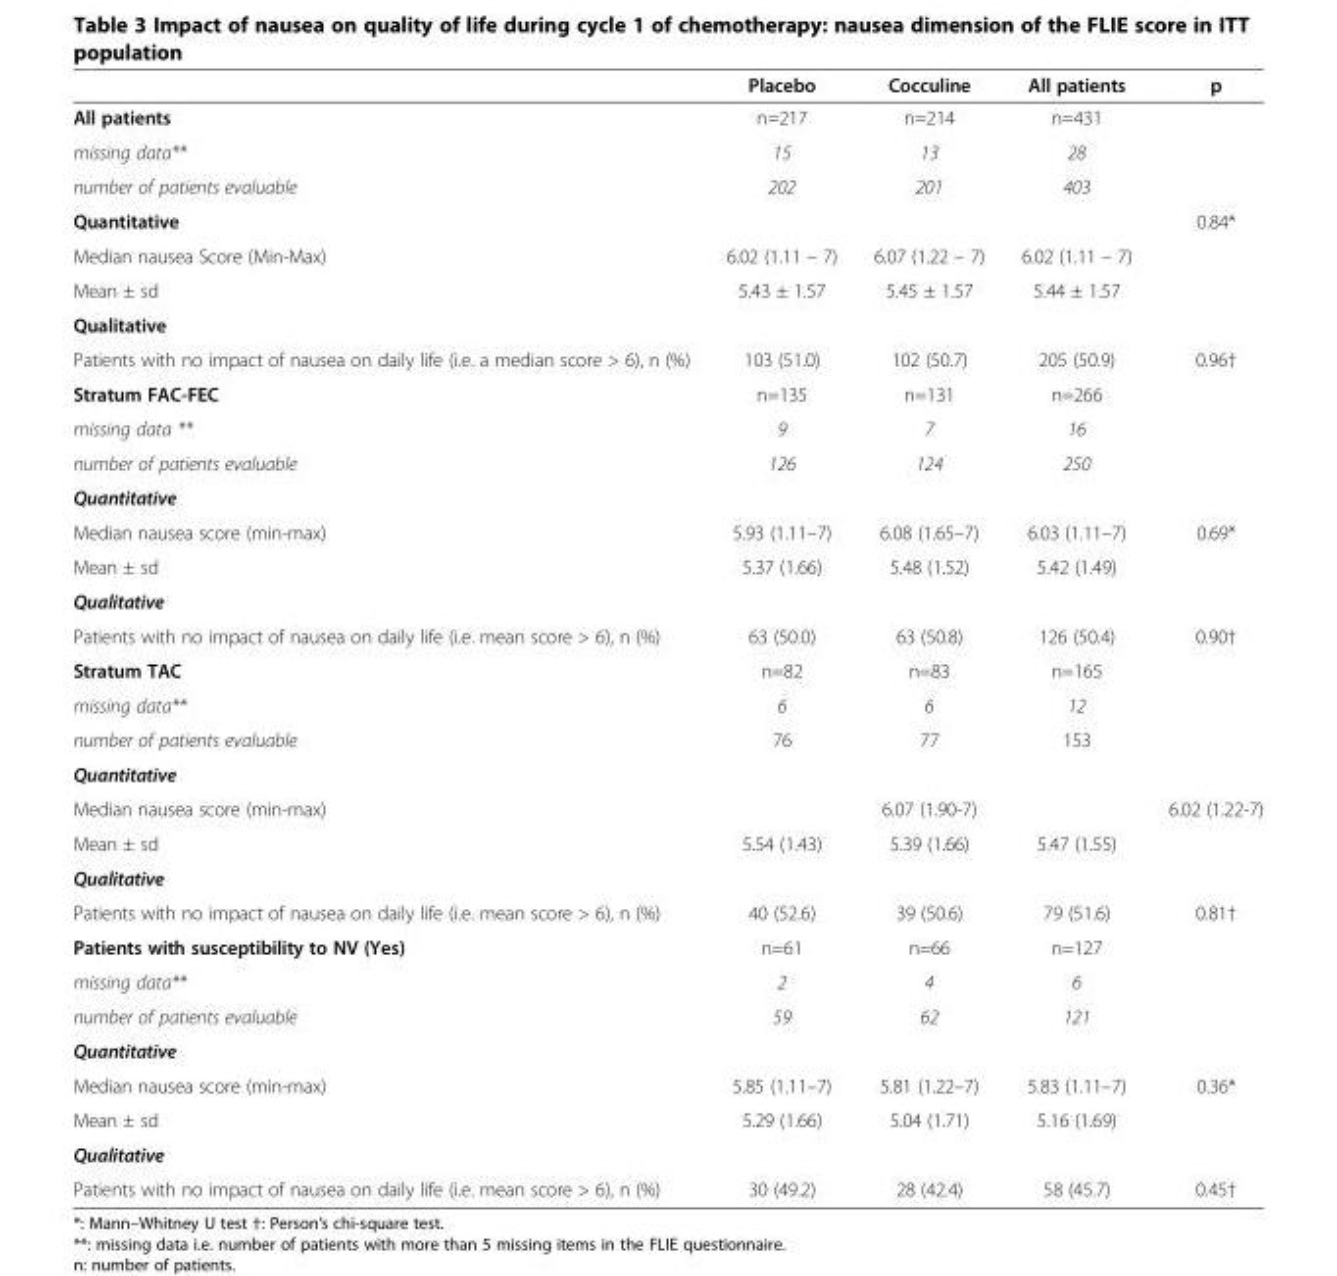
<table><thead><tr><td></td><td>Placebo</td><td>Cocculine</td><td>All patients</td><td>p</td></tr></thead><tbody><tr><td>All patients</td><td>n=217</td><td>n=214</td><td>n=431</td><td></td></tr><tr><td>missing data**</td><td>15</td><td>13</td><td>28</td><td></td></tr><tr><td>number of patients evaluable</td><td>202</td><td>201</td><td>403</td><td></td></tr><tr><td colspan="4">Quantitative</td><td rowspan="3">0.84*</td></tr><tr><td>Median nausea Score (Min-Max)</td><td>6.02 (1.11 – 7)</td><td>6.07 (1.22 – 7)</td><td>6.02 (1.11 – 7)</td></tr><tr><td>Mean ± sd</td><td>5.43 ± 1.57</td><td>5.45 ± 1.57</td><td>5.44 ± 1.57</td></tr><tr><td colspan="5">Qualitative</td></tr><tr><td>Patients with no impact of nausea on daily life (i.e. a median score &gt; 6), n (%)</td><td>103 (51.0)</td><td>102 (50.7)</td><td>205 (50.9)</td><td>0.96†</td></tr><tr><td>Stratum FAC-FEC</td><td>n=135</td><td>n=131</td><td>n=266</td><td></td></tr><tr><td>missing data **</td><td>9</td><td>7</td><td>16</td><td rowspan="2"></td></tr><tr><td>number of patients evaluable</td><td>126</td><td>124</td><td>250</td></tr><tr><td colspan="5">Quantitative</td></tr><tr><td>Median nausea score (min-max)</td><td>5.93 (1.11–7)</td><td>6.08 (1.65–7)</td><td>6.03 (1.11–7)</td><td>0.69*</td></tr><tr><td>Mean ± sd</td><td>5.37 (1.66)</td><td>5.48 (1.52)</td><td>5.42 (1.49)</td><td></td></tr><tr><td colspan="5">Qualitative</td></tr><tr><td>Patients with no impact of nausea on daily life (i.e. mean score &gt; 6), n (%)</td><td>63 (50.0)</td><td>63 (50.8)</td><td>126 (50.4)</td><td>0.90†</td></tr><tr><td>Stratum TAC</td><td>n=82</td><td>n=83</td><td>n=165</td><td></td></tr><tr><td>missing data**</td><td>6</td><td>6</td><td>12</td><td></td></tr><tr><td>number of patients evaluable</td><td>76</td><td>77</td><td>153</td><td></td></tr><tr><td colspan="5">Quantitative</td></tr><tr><td>Median nausea score (min-max)</td><td></td><td>6.07 (1.90-7)</td><td></td><td rowspan="2">6.02 (1.22-7)</td></tr><tr><td>Mean ± sd</td><td>5.54 (1.43)</td><td>5.39 (1.66)</td><td>5.47 (1.55)</td></tr><tr><td colspan="5">Qualitative</td></tr><tr><td>Patients with no impact of nausea on daily life (i.e. mean score &gt; 6), n (%)</td><td>40 (52.6)</td><td>39 (50.6)</td><td>79 (51.6)</td><td>0.81†</td></tr><tr><td>Patients with susceptibility to NV (Yes)</td><td>n=61</td><td>n=66</td><td>n=127</td><td rowspan="4"></td></tr><tr><td>missing data**</td><td>2</td><td>4</td><td>6</td></tr><tr><td>number of patients evaluable</td><td>59</td><td>62</td><td>121</td></tr><tr><td colspan="4">Quantitative</td></tr><tr><td>Median nausea score (min-max)</td><td>5.85 (1.11–7)</td><td>5.81 (1.22–7)</td><td>5.83 (1.11–7)</td><td rowspan="2">0.36*</td></tr><tr><td>Mean ± sd</td><td>5.29 (1.66)</td><td>5.04 (1.71)</td><td>5.16 (1.69)</td></tr><tr><td colspan="5">Qualitative</td></tr><tr><td>Patients with no impact of nausea on daily life (i.e. mean score &gt; 6), n (%)</td><td>30 (49.2)</td><td>28 (42.4)</td><td>58 (45.7)</td><td>0.45†</td></tr></tbody></table>